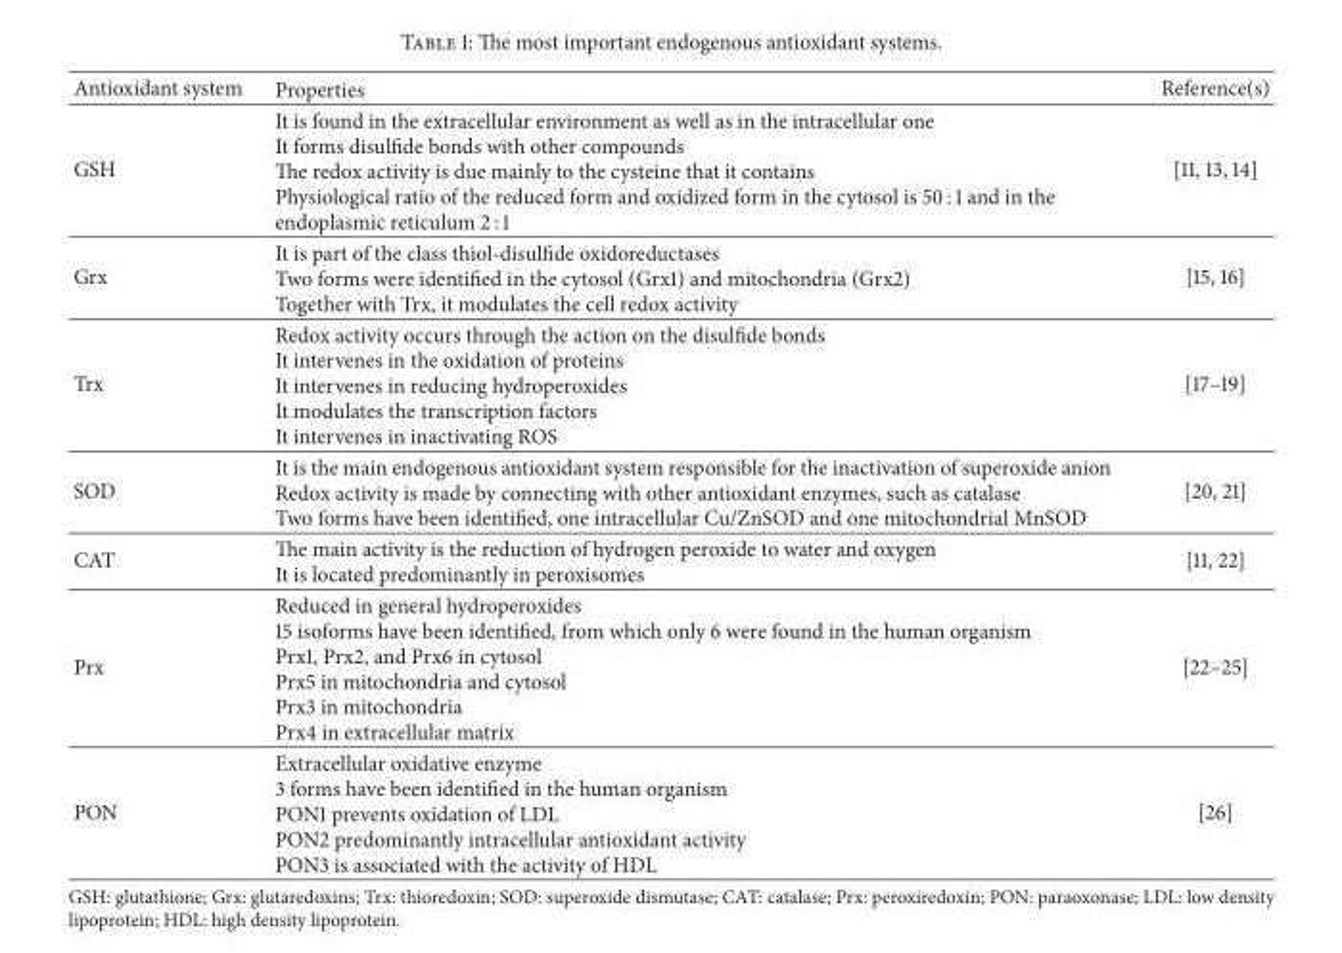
<table><thead><tr><td>Antioxidant system</td><td>Properties</td><td>Reference(s)</td></tr></thead><tbody><tr><td>GSH</td><td>It is found in the extracellular environment as well as in the intracellular one It forms disulfide bonds with other compounds The redox activity is due mainly to the cysteine that it contains Physiological ratio of the reduced form and oxidized form in the cytosol is 50 : 1 and in the endoplasmic reticulum 2 : 1</td><td>[11, 13, 14]</td></tr><tr><td>Grx</td><td>It is part of the class thiol-disulfide oxidoreductases Two forms were identified in the cytosol (Grx1) and mitochondria (Grx2) Together with Trx, it modulates the cell redox activity</td><td>[15, 16]</td></tr><tr><td>Trx</td><td>Redox activity occurs through the action on the disulfide bonds It intervenes in the oxidation of proteins It intervenes in reducing hydroperoxides It modulates the transcription factors It intervenes in inactivating ROS</td><td>[17–19]</td></tr><tr><td>SOD</td><td>It is the main endogenous antioxidant system responsible for the inactivation of superoxide anion Redox activity is made by connecting with other antioxidant enzymes, such as catalase Two forms have been identified, one intracellular Cu/ZnSOD and one mitochondrial MnSOD</td><td>[20, 21]</td></tr><tr><td>CAT</td><td>The main activity is the reduction of hydrogen peroxide to water and oxygen It is located predominantly in peroxisomes</td><td>[11, 22]</td></tr><tr><td>Prx</td><td>Reduced in general hydroperoxides 15 isoforms have been identified, from which only 6 were found in the human organism Prx1, Prx2, and Prx6 in cytosol Prx5 in mitochondria and cytosol Prx3 in mitochondria Prx4 in extracellular matrix</td><td>[22–25]</td></tr><tr><td>PON</td><td>Extracellular oxidative enzyme 3 forms have been identified in the human organism PON1 prevents oxidation of LDL PON2 predominantly intracellular antioxidant activity PON3 is associated with the activity of HDL</td><td>[26]</td></tr></tbody></table>